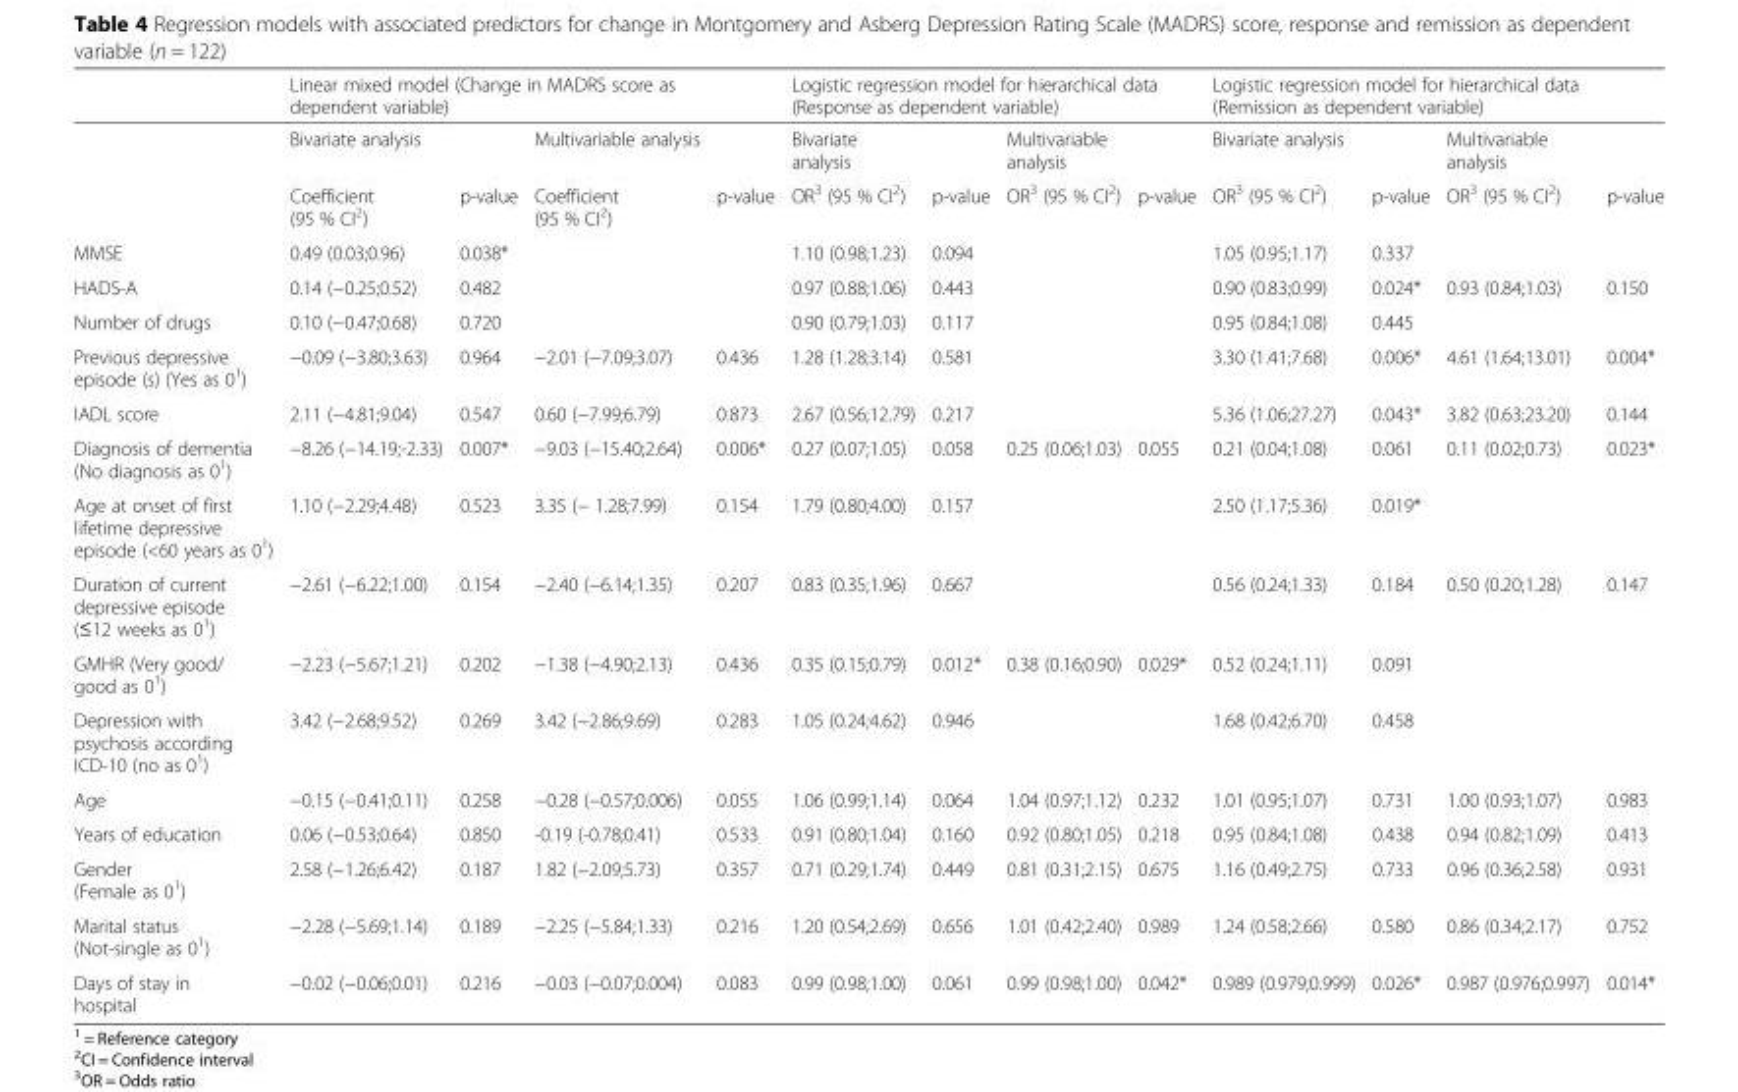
<table><thead><tr><td rowspan="2"></td><td colspan="4">Linear mixed model (Change in MADRS score as dependent variable)</td><td colspan="4">Logistic regression model for hierarchical data (Response as dependent variable)</td><td colspan="4">Logistic regression model for hierarchical data (Remission as dependent variable)</td></tr><tr><td>Bivariate analysis</td><td></td><td>Multivariable analysis</td><td></td><td>Bivariate analysis</td><td></td><td>Multivariable analysis</td><td></td><td>Bivariate analysis</td><td></td><td>Multivariable analysis</td><td></td></tr></thead><tbody><tr><td></td><td>Coefficient (95 % CI<sup>2</sup>)</td><td>p-value</td><td>Coefficient (95 % CI<sup>2</sup>)</td><td>p-value</td><td>OR<sup>3</sup> (95 % CI<sup>2</sup>)</td><td>p-value</td><td>OR<sup>3</sup> (95 % CI<sup>2</sup>)</td><td>p-value</td><td>OR<sup>3</sup> (95 % CI<sup>2</sup>)</td><td>p-value</td><td>OR<sup>3</sup> (95 % CI<sup>2</sup>)</td><td>p-value</td></tr><tr><td>MMSE</td><td>0.49 (0.03;0.96)</td><td>0.038*</td><td></td><td></td><td>1.10 (0.98;1.23)</td><td>0.094</td><td></td><td></td><td>1.05 (0.95;1.17)</td><td>0.337</td><td></td><td></td></tr><tr><td>HADS-A</td><td>0.14 (−0.25;0.52)</td><td>0.482</td><td></td><td></td><td>0.97 (0.88;1.06)</td><td>0.443</td><td></td><td></td><td>0.90 (0.83;0.99)</td><td>0.024*</td><td>0.93 (0.84;1.03)</td><td>0.150</td></tr><tr><td>Number of drugs</td><td>0.10 (−0.47;0.68)</td><td>0.720</td><td></td><td></td><td>0.90 (0.79;1.03)</td><td>0.117</td><td></td><td></td><td>0.95 (0.84;1.08)</td><td>0.445</td><td></td><td></td></tr><tr><td>Previous depressive episode (s) (Yes as 0<sup>1</sup>)</td><td>−0.09 (−3.80;3.63)</td><td>0.964</td><td>−2.01 (−7.09;3.07)</td><td>0.436</td><td>1.28 (1.28;3.14)</td><td>0.581</td><td></td><td></td><td>3.30 (1.41;7.68)</td><td>0.006*</td><td>4.61 (1.64;13.01)</td><td>0.004*</td></tr><tr><td>IADL score</td><td>2.11 (−4.81;9.04)</td><td>0.547</td><td>0.60 (−7.99;6.79)</td><td>0.873</td><td>2.67 (0.56;12.79)</td><td>0.217</td><td></td><td></td><td>5.36 (1.06;27.27)</td><td>0.043*</td><td>3.82 (0.63;23.20)</td><td>0.144</td></tr><tr><td>Diagnosis of dementia (No diagnosis as 0<sup>1</sup>)</td><td>−8.26 (−14.19;-2.33)</td><td>0.007*</td><td>−9.03 (−15.40;2.64)</td><td>0.006*</td><td>0.27 (0.07;1.05)</td><td>0.058</td><td>0.25 (0.06;1.03)</td><td>0.055</td><td>0.21 (0.04;1.08)</td><td>0.061</td><td>0.11 (0.02;0.73)</td><td>0.023*</td></tr><tr><td>Age at onset of first lifetime depressive episode (&lt;60 years as 0<sup>1</sup>)</td><td>1.10 (−2.29;4.48)</td><td>0.523</td><td>3.35 (− 1.28;7.99)</td><td>0.154</td><td>1.79 (0.80;4.00)</td><td>0.157</td><td></td><td></td><td>2.50 (1.17;5.36)</td><td>0.019*</td><td></td><td></td></tr><tr><td>Duration of current depressive episode (≤12 weeks as 0<sup>1</sup>)</td><td>−2.61 (−6.22;1.00)</td><td>0.154</td><td>−2.40 (−6.14;1.35)</td><td>0.207</td><td>0.83 (0.35;1.96)</td><td>0.667</td><td></td><td></td><td>0.56 (0.24;1.33)</td><td>0.184</td><td>0.50 (0.20;1.28)</td><td>0.147</td></tr><tr><td>GMHR (Very good/ good as 0<sup>1</sup>)</td><td>−2.23 (−5.67;1.21)</td><td>0.202</td><td>−1.38 (−4.90;2.13)</td><td>0.436</td><td>0.35 (0.15;0.79)</td><td>0.012*</td><td>0.38 (0.16;0.90)</td><td>0.029*</td><td>0.52 (0.24;1.11)</td><td>0.091</td><td></td><td></td></tr><tr><td>Depression with psychosis according ICD-10 (no as 0<sup>1</sup>)</td><td>3.42 (−2.68;9.52)</td><td>0.269</td><td>3.42 (−2.86;9.69)</td><td>0.283</td><td>1.05 (0.24;4.62)</td><td>0.946</td><td></td><td></td><td>1.68 (0.42;6.70)</td><td>0.458</td><td></td><td></td></tr><tr><td>Age</td><td>−0.15 (−0.41;0.11)</td><td>0.258</td><td>−0.28 (−0.57;0.006)</td><td>0.055</td><td>1.06 (0.99;1.14)</td><td>0.064</td><td>1.04 (0.97;1.12)</td><td>0.232</td><td>1.01 (0.95;1.07)</td><td>0.731</td><td>1.00 (0.93;1.07)</td><td>0.983</td></tr><tr><td>Years of education</td><td>0.06 (−0.53;0.64)</td><td>0.850</td><td>-0.19 (-0.78;0.41)</td><td>0.533</td><td>0.91 (0.80;1.04)</td><td>0.160</td><td>0.92 (0.80;1.05)</td><td>0.218</td><td>0.95 (0.84;1.08)</td><td>0.438</td><td>0.94 (0.82;1.09)</td><td>0.413</td></tr><tr><td>Gender (Female as 0<sup>1</sup>)</td><td>2.58 (−1.26;6.42)</td><td>0.187</td><td>1.82 (−2.09;5.73)</td><td>0.357</td><td>0.71 (0.29;1.74)</td><td>0.449</td><td>0.81 (0.31;2.15)</td><td>0.675</td><td>1.16 (0.49;2.75)</td><td>0.733</td><td>0.96 (0.36;2.58)</td><td>0.931</td></tr><tr><td>Marital status (Not-single as 0<sup>1</sup>)</td><td>−2.28 (−5.69;1.14)</td><td>0.189</td><td>−2.25 (−5.84;1.33)</td><td>0.216</td><td>1.20 (0.54;2.69)</td><td>0.656</td><td>1.01 (0.42;2.40)</td><td>0.989</td><td>1.24 (0.58;2.66)</td><td>0.580</td><td>0.86 (0.34;2.17)</td><td>0.752</td></tr><tr><td>Days of stay in hospital</td><td>−0.02 (−0.06;0.01)</td><td>0.216</td><td>−0.03 (−0.07;0.004)</td><td>0.083</td><td>0.99 (0.98;1.00)</td><td>0.061</td><td>0.99 (0.98;1.00)</td><td>0.042*</td><td>0.989 (0.979;0.999)</td><td>0.026*</td><td>0.987 (0.976;0.997)</td><td>0.014*</td></tr></tbody></table>